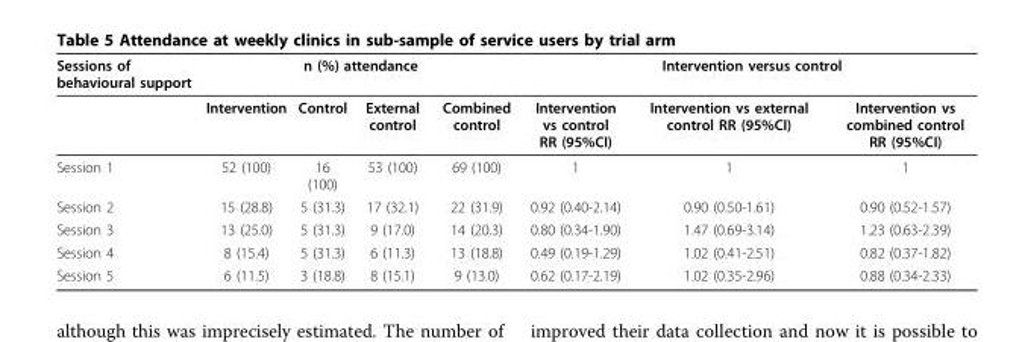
<table><thead><tr><td rowspan="2">Sessions of behavioural support</td><td colspan="4">n (%) attendance</td><td colspan="3">Intervention versus control</td></tr><tr><td>Intervention</td><td>Control</td><td>External control</td><td>Combined control</td><td>Intervention vs control RR (95%CI)</td><td>Intervention vs external control RR (95%CI)</td><td>Intervention vs combined control RR (95%CI)</td></tr></thead><tbody><tr><td>Session 1</td><td>52 (100)</td><td>16 (100)</td><td>53 (100)</td><td>69 (100)</td><td>1</td><td>1</td><td>1</td></tr><tr><td>Session 2</td><td>15 (28.8)</td><td>5 (31.3)</td><td>17 (32.1)</td><td>22 (31.9)</td><td>0.92 (0.40-2.14)</td><td>0.90 (0.50-1.61)</td><td>0.90 (0.52-1.57)</td></tr><tr><td>Session 3</td><td>13 (25.0)</td><td>5 (31.3)</td><td>9 (17.0)</td><td>14 (20.3)</td><td>0.80 (0.34-1.90)</td><td>1.47 (0.69-3.14)</td><td>1.23 (0.63-2.39)</td></tr><tr><td>Session 4</td><td>8 (15.4)</td><td>5 (31.3)</td><td>6 (11.3)</td><td>13 (18.8)</td><td>0.49 (0.19-1.29)</td><td>1.02 (0.41-2.51)</td><td>0.82 (0.37-1.82)</td></tr><tr><td>Session 5</td><td>6 (11.5)</td><td>3 (18.8)</td><td>8 (15.1)</td><td>9 (13.0)</td><td>0.62 (0.17-2.19)</td><td>1.02 (0.35-2.96)</td><td>0.88 (0.34-2.33)</td></tr></tbody></table>